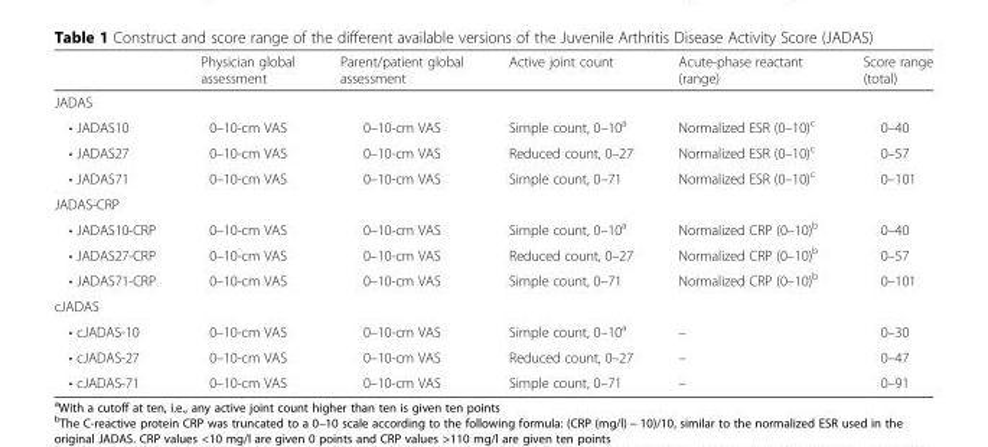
<table><thead><tr><td></td><td>Physician global assessment</td><td>Parent/patient global assessment</td><td>Active joint count</td><td>Acute-phase reactant (range)</td><td>Score range (total)</td></tr></thead><tbody><tr><td colspan="6">JADAS</td></tr><tr><td>• JADAS10</td><td>0–10-cm VAS</td><td>0–10-cm VAS</td><td>Simple count, 0–10<sup>a</sup></td><td>Normalized ESR (0–10)<sup>c</sup></td><td>0–40</td></tr><tr><td>• JADAS27</td><td>0–10-cm VAS</td><td>0–10-cm VAS</td><td>Reduced count, 0–27</td><td>Normalized ESR (0–10)<sup>c</sup></td><td>0–57</td></tr><tr><td>• JADAS71</td><td>0–10-cm VAS</td><td>0–10-cm VAS</td><td>Simple count, 0–71</td><td>Normalized ESR (0–10)<sup>c</sup></td><td>0–101</td></tr><tr><td colspan="6">JADAS-CRP</td></tr><tr><td>• JADAS10-CRP</td><td>0–10-cm VAS</td><td>0–10-cm VAS</td><td>Simple count, 0–10<sup>a</sup></td><td>Normalized CRP (0–10)<sup>b</sup></td><td>0–40</td></tr><tr><td>• JADAS27-CRP</td><td>0–10-cm VAS</td><td>0–10-cm VAS</td><td>Reduced count, 0–27</td><td>Normalized CRP (0–10)<sup>b</sup></td><td>0–57</td></tr><tr><td>• JADAS71-CRP</td><td>0–10-cm VAS</td><td>0–10-cm VAS</td><td>Simple count, 0–71</td><td>Normalized CRP (0–10)<sup>b</sup></td><td>0–101</td></tr><tr><td colspan="6">cJADAS</td></tr><tr><td>• cJADAS-10</td><td>0–10-cm VAS</td><td>0–10-cm VAS</td><td>Simple count, 0–10<sup>a</sup></td><td>–</td><td>0–30</td></tr><tr><td>• cJADAS-27</td><td>0–10-cm VAS</td><td>0–10-cm VAS</td><td>Reduced count, 0–27</td><td>–</td><td>0–47</td></tr><tr><td>• cJADAS-71</td><td>0–10-cm VAS</td><td>0–10-cm VAS</td><td>Simple count, 0–71</td><td>–</td><td>0–91</td></tr></tbody></table>